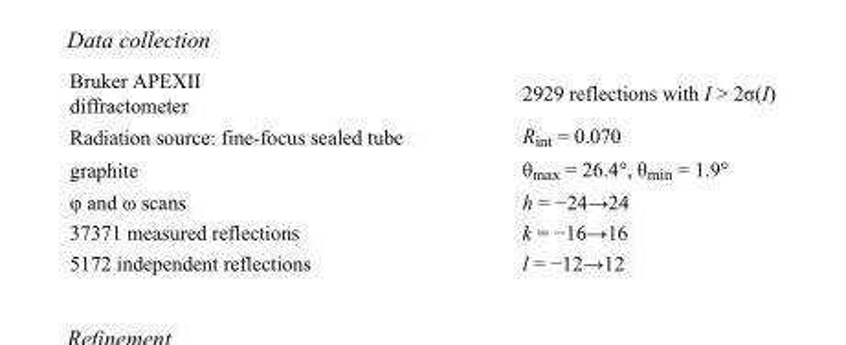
<table><tbody><tr><td>Bruker APEXII diffractometer</td><td>2929 reflections with I &gt; 2σ(I)</td></tr><tr><td>Radiation source: fine-focus sealed tube</td><td>R<sub>int</sub> = 0.070</td></tr><tr><td>graphite</td><td>θ<sub>max</sub> = 26.4°, θ<sub>min</sub> = 1.9°</td></tr><tr><td>φ and ω scans</td><td>h = −24→24</td></tr><tr><td>37371 measured reflections</td><td>k = −16→16</td></tr><tr><td>5172 independent reflections</td><td>l = −12→12</td></tr></tbody></table>